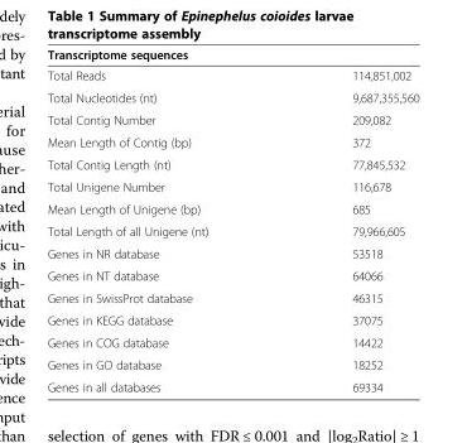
<table><thead><tr><td>Transcriptome sequences</td><td></td></tr></thead><tbody><tr><td>Total Reads</td><td>114,851,002</td></tr><tr><td>Total Nucleotides (nt)</td><td>9,687,355,560</td></tr><tr><td>Total Contig Number</td><td>209,082</td></tr><tr><td>Mean Length of Contig (bp)</td><td>372</td></tr><tr><td>Total Contig Length (nt)</td><td>77,845,532</td></tr><tr><td>Total Unigene Number</td><td>116,678</td></tr><tr><td>Mean Length of Unigene (bp)</td><td>685</td></tr><tr><td>Total Length of all Unigene (nt)</td><td>79,966,605</td></tr><tr><td>Genes in NR database</td><td>53518</td></tr><tr><td>Genes in NT database</td><td>64066</td></tr><tr><td>Genes in SwissProt database</td><td>46315</td></tr><tr><td>Genes in KEGG database</td><td>37075</td></tr><tr><td>Genes in COG database</td><td>14422</td></tr><tr><td>Genes in GO database</td><td>18252</td></tr><tr><td>Genes in all databases</td><td>69334</td></tr></tbody></table>